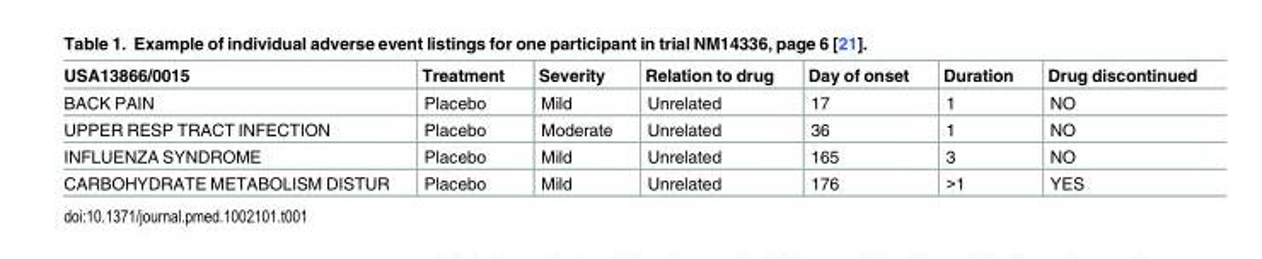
<table><thead><tr><td>USA13866/0015</td><td>Treatment</td><td>Severity</td><td>Relation to drug</td><td>Day of onset</td><td>Duration</td><td>Drug discontinued</td></tr></thead><tbody><tr><td>BACK PAIN</td><td>Placebo</td><td>Mild</td><td>Unrelated</td><td>17</td><td>1</td><td>NO</td></tr><tr><td>UPPER RESP TRACT INFECTION</td><td>Placebo</td><td>Moderate</td><td>Unrelated</td><td>36</td><td>1</td><td>NO</td></tr><tr><td>INFLUENZA SYNDROME</td><td>Placebo</td><td>Mild</td><td>Unrelated</td><td>165</td><td>3</td><td>NO</td></tr><tr><td>CARBOHYDRATE METABOLISM DISTUR</td><td>Placebo</td><td>Mild</td><td>Unrelated</td><td>176</td><td>&gt;1</td><td>YES</td></tr></tbody></table>